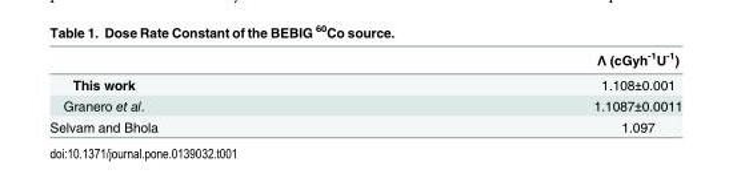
<table><thead><tr><td></td><td>Λ (cGyh<sup>-1</sup>U<sup>-1</sup>)</td></tr></thead><tbody><tr><td>This work</td><td>1.108±0.001</td></tr><tr><td>Granero et al.</td><td>1.1087±0.0011</td></tr><tr><td>Selvam and Bhola</td><td>1.097</td></tr></tbody></table>